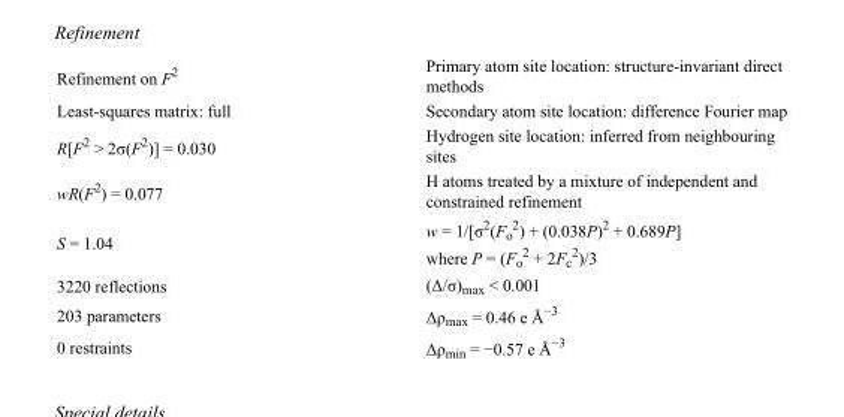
<table><tbody><tr><td>Refinement on F<sup>2</sup></td><td>Primary atom site location: structure-invariant direct methods</td></tr><tr><td>Least-squares matrix: full</td><td>Secondary atom site location: difference Fourier map</td></tr><tr><td>R[F<sup>2</sup> &gt; 2σ(F<sup>2</sup>)] = 0.030</td><td>Hydrogen site location: inferred from neighbouring sites</td></tr><tr><td>wR(F<sup>2</sup>) = 0.077</td><td>H atoms treated by a mixture of independent and constrained refinement</td></tr><tr><td>S = 1.04</td><td>w = 1/[σ<sup>2</sup>(F<sub>o</sub> <sup>2</sup>) + (0.038P)<sup>2</sup> + 0.689P] where P = (F<sub>o</sub> <sup>2</sup> + 2F<sub>c</sub> <sup>2</sup>)/3</td></tr><tr><td>3220 reflections</td><td>(Δ/σ)<sub>max</sub> &lt; 0.001</td></tr><tr><td>203 parameters</td><td>Δρ<sub>max</sub> = 0.46 e Å<sup>−3</sup></td></tr><tr><td>0 restraints</td><td>Δρ<sub>min</sub> = −0.57 e Å<sup>−3</sup></td></tr></tbody></table>